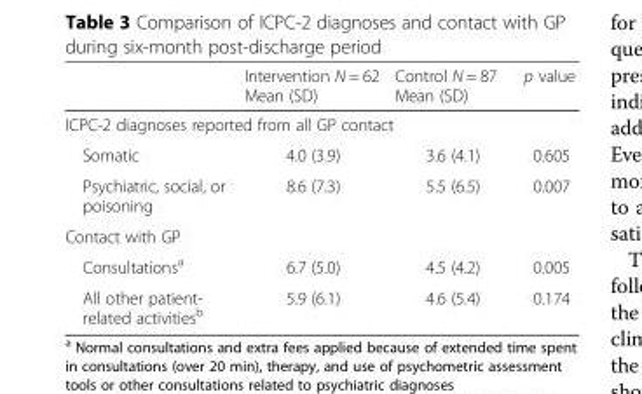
<table><thead><tr><td></td><td>Intervention N = 62 Mean (SD)</td><td>Control N = 87 Mean (SD)</td><td>p value</td></tr></thead><tbody><tr><td colspan="4">ICPC-2 diagnoses reported from all GP contact</td></tr><tr><td>Somatic</td><td>4.0 (3.9)</td><td>3.6 (4.1)</td><td>0.605</td></tr><tr><td>Psychiatric, social, or poisoning</td><td>8.6 (7.3)</td><td>5.5 (6.5)</td><td>0.007</td></tr><tr><td colspan="4">Contact with GP</td></tr><tr><td>Consultations<sup>a</sup></td><td>6.7 (5.0)</td><td>4.5 (4.2)</td><td>0.005</td></tr><tr><td>All other patient- related activities<sup>b</sup></td><td>5.9 (6.1)</td><td>4.6 (5.4)</td><td>0.174</td></tr></tbody></table>